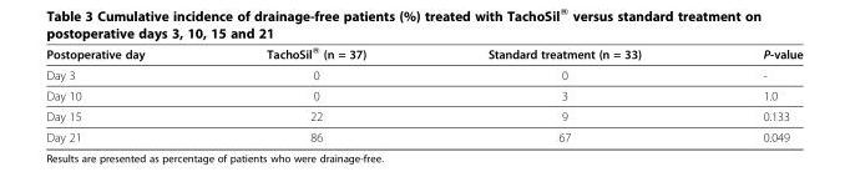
<table><thead><tr><td>Postoperative day</td><td>TachoSil<sup>®</sup> (n = 37)</td><td>Standard treatment (n = 33)</td><td>P-value</td></tr></thead><tbody><tr><td>Day 3</td><td>0</td><td>0</td><td>-</td></tr><tr><td>Day 10</td><td>0</td><td>3</td><td>1.0</td></tr><tr><td>Day 15</td><td>22</td><td>9</td><td>0.133</td></tr><tr><td>Day 21</td><td>86</td><td>67</td><td>0.049</td></tr></tbody></table>